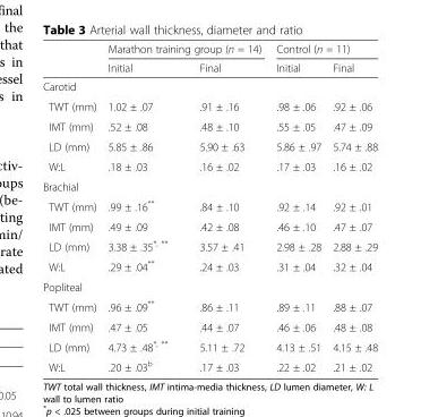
<table><thead><tr><td rowspan="2"></td><td colspan="2">Marathon training group (n = 14)</td><td colspan="2">Control (n = 11)</td></tr><tr><td>Initial</td><td>Final</td><td>Initial</td><td>Final</td></tr></thead><tbody><tr><td colspan="5">Carotid</td></tr><tr><td>TWT (mm)</td><td>1.02 ± .07</td><td>.91 ± .16</td><td>.98 ± .06</td><td>.92 ± .06</td></tr><tr><td>IMT (mm)</td><td>.52 ± .08</td><td>.48 ± .10</td><td>.55 ± .05</td><td>.47 ± .09</td></tr><tr><td>LD (mm)</td><td>5.85 ± .86</td><td>5.90 ± .63</td><td>5.86 ± .97</td><td>5.74 ± .88</td></tr><tr><td>W:L</td><td>.18 ± .03</td><td>.16 ± .02</td><td>.17 ± .03</td><td>.16 ± .02</td></tr><tr><td colspan="5">Brachial</td></tr><tr><td>TWT (mm)</td><td>.99 ± .16**</td><td>.84 ± .10</td><td>.92 ± .14</td><td>.92 ± .01</td></tr><tr><td>IMT (mm)</td><td>.49 ± .09</td><td>.42 ± .08</td><td>.46 ± .10</td><td>.47 ± .07</td></tr><tr><td>LD (mm)</td><td>3.38 ± .35<sup>*, **</sup></td><td>3.57 ± .41</td><td>2.98 ± .28</td><td>2.88 ± .29</td></tr><tr><td>W:L</td><td>.29 ± .04**</td><td>.24 ± .03</td><td>.31 ± .04</td><td>.32 ± .04</td></tr><tr><td colspan="5">Popliteal</td></tr><tr><td>TWT (mm)</td><td>.96 ± .09**</td><td>.86 ± .11</td><td>.89 ± .11</td><td>.88 ± .07</td></tr><tr><td>IMT (mm)</td><td>.47 ± .05</td><td>.44 ± .07</td><td>.46 ± .06</td><td>.48 ± .08</td></tr><tr><td>LD (mm)</td><td>4.73 ± .48<sup>*, **</sup></td><td>5.11 ± .72</td><td>4.13 ± .51</td><td>4.15 ± .48</td></tr><tr><td>W:L</td><td>.20 ± .03<sup>b</sup></td><td>.17 ± .03</td><td>.22 ± .02</td><td>.21 ± .02</td></tr></tbody></table>